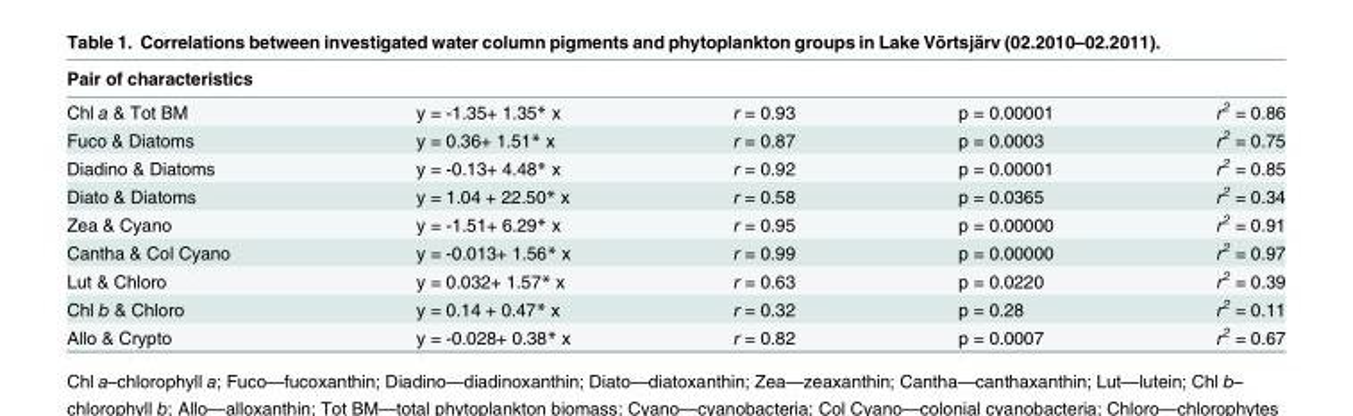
<table><thead><tr><td>Pair of characteristics</td><td></td><td></td><td></td><td></td></tr></thead><tbody><tr><td>Chl a &amp; Tot BM</td><td>y = -1.35+ 1.35* x</td><td>r = 0.93</td><td>p = 0.00001</td><td>r<sup>2</sup> = 0.86</td></tr><tr><td>Fuco &amp; Diatoms</td><td>y = 0.36+ 1.51* x</td><td>r = 0.87</td><td>p = 0.0003</td><td>r<sup>2</sup> = 0.75</td></tr><tr><td>Diadino &amp; Diatoms</td><td>y = -0.13+ 4.48* x</td><td>r = 0.92</td><td>p = 0.00001</td><td>r<sup>2</sup> = 0.85</td></tr><tr><td>Diato &amp; Diatoms</td><td>y = 1.04 + 22.50* x</td><td>r = 0.58</td><td>p = 0.0365</td><td>r<sup>2</sup> = 0.34</td></tr><tr><td>Zea &amp; Cyano</td><td>y = -1.51+ 6.29* x</td><td>r = 0.95</td><td>p = 0.00000</td><td>r<sup>2</sup> = 0.91</td></tr><tr><td>Cantha &amp; Col Cyano</td><td>y = -0.013+ 1.56* x</td><td>r = 0.99</td><td>p = 0.00000</td><td>r<sup>2</sup> = 0.97</td></tr><tr><td>Lut &amp; Chloro</td><td>y = 0.032+ 1.57* x</td><td>r = 0.63</td><td>p = 0.0220</td><td>r<sup>2</sup> = 0.39</td></tr><tr><td>Chl b &amp; Chloro</td><td>y = 0.14 + 0.47* x</td><td>r = 0.32</td><td>p = 0.28</td><td>r<sup>2</sup> = 0.11</td></tr><tr><td>Allo &amp; Crypto</td><td>y = -0.028+ 0.38* x</td><td>r = 0.82</td><td>p = 0.0007</td><td>r<sup>2</sup> = 0.67</td></tr></tbody></table>